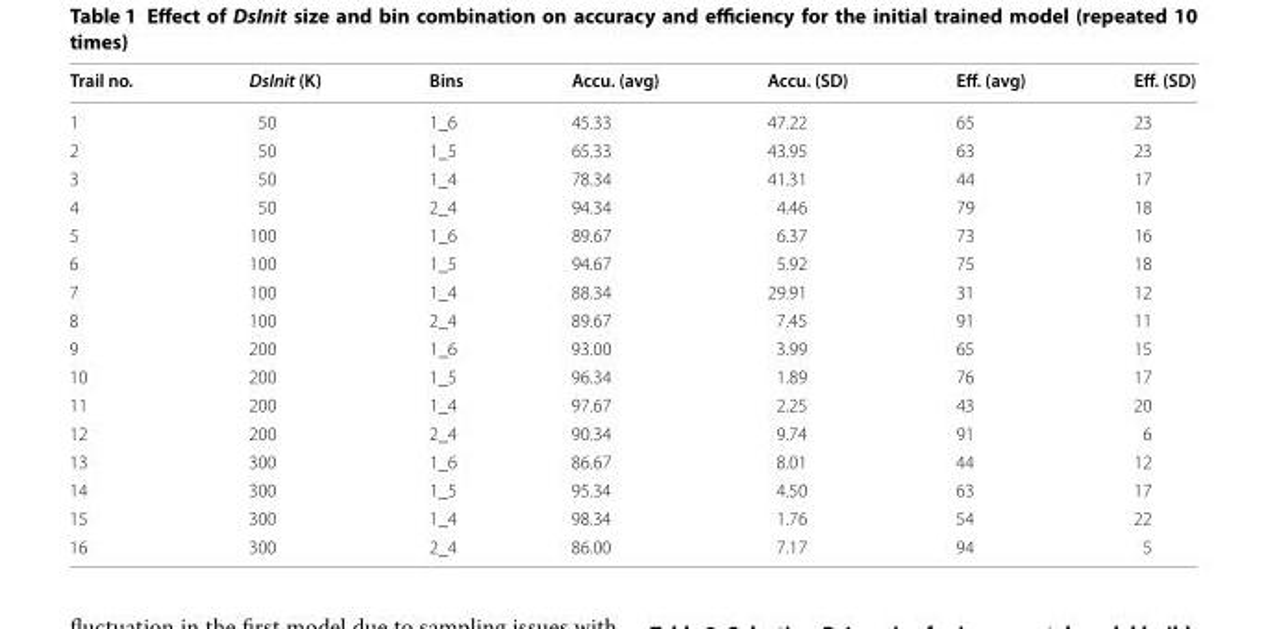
<table><thead><tr><td>Trail no.</td><td>DsInit (K)</td><td>Bins</td><td>Accu. (avg)</td><td>Accu. (SD)</td><td>Eff. (avg)</td><td>Eff. (SD)</td></tr></thead><tbody><tr><td>1</td><td>50</td><td>1_6</td><td>45.33</td><td>47.22</td><td>65</td><td>23</td></tr><tr><td>2</td><td>50</td><td>1_5</td><td>65.33</td><td>43.95</td><td>63</td><td>23</td></tr><tr><td>3</td><td>50</td><td>1_4</td><td>78.34</td><td>41.31</td><td>44</td><td>17</td></tr><tr><td>4</td><td>50</td><td>2_4</td><td>94.34</td><td>4.46</td><td>79</td><td>18</td></tr><tr><td>5</td><td>100</td><td>1_6</td><td>89.67</td><td>6.37</td><td>73</td><td>16</td></tr><tr><td>6</td><td>100</td><td>1_5</td><td>94.67</td><td>5.92</td><td>75</td><td>18</td></tr><tr><td>7</td><td>100</td><td>1_4</td><td>88.34</td><td>29.91</td><td>31</td><td>12</td></tr><tr><td>8</td><td>100</td><td>2_4</td><td>89.67</td><td>7.45</td><td>91</td><td>11</td></tr><tr><td>9</td><td>200</td><td>1_6</td><td>93.00</td><td>3.99</td><td>65</td><td>15</td></tr><tr><td>10</td><td>200</td><td>1_5</td><td>96.34</td><td>1.89</td><td>76</td><td>17</td></tr><tr><td>11</td><td>200</td><td>1_4</td><td>97.67</td><td>2.25</td><td>43</td><td>20</td></tr><tr><td>12</td><td>200</td><td>2_4</td><td>90.34</td><td>9.74</td><td>91</td><td>6</td></tr><tr><td>13</td><td>300</td><td>1_6</td><td>86.67</td><td>8.01</td><td>44</td><td>12</td></tr><tr><td>14</td><td>300</td><td>1_5</td><td>95.34</td><td>4.50</td><td>63</td><td>17</td></tr><tr><td>15</td><td>300</td><td>1_4</td><td>98.34</td><td>1.76</td><td>54</td><td>22</td></tr><tr><td>16</td><td>300</td><td>2_4</td><td>86.00</td><td>7.17</td><td>94</td><td>5</td></tr></tbody></table>